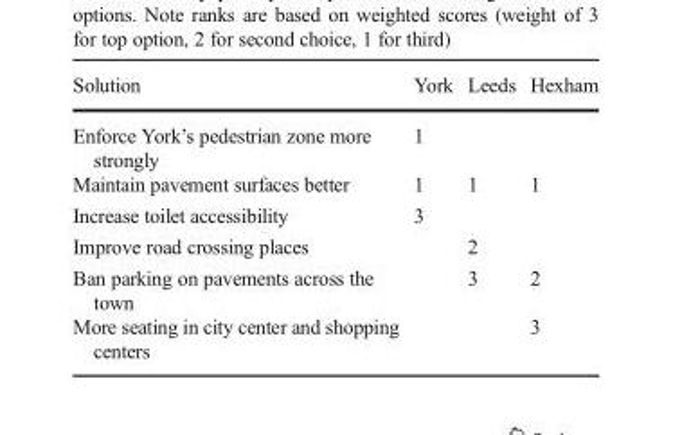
<table><thead><tr><td>Solution</td><td>York</td><td>Leeds</td><td>Hexham</td></tr></thead><tbody><tr><td>Enforce York’s pedestrian zone more strongly</td><td>1</td><td></td><td></td></tr><tr><td>Maintain pavement surfaces better</td><td>1</td><td>1</td><td>1</td></tr><tr><td>Increase toilet accessibility</td><td>3</td><td></td><td></td></tr><tr><td>Improve road crossing places</td><td></td><td>2</td><td></td></tr><tr><td>Ban parking on pavements across the town</td><td></td><td>3</td><td>2</td></tr><tr><td>More seating in city center and shopping centers</td><td></td><td></td><td>3</td></tr></tbody></table>